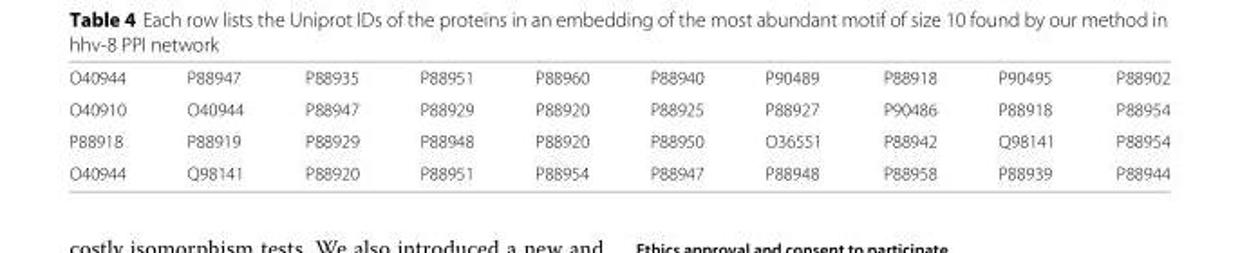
<table><tbody><tr><td>O40944</td><td>P88947</td><td>P88935</td><td>P88951</td><td>P88960</td><td>P88940</td><td>P90489</td><td>P88918</td><td>P90495</td><td>P88902</td></tr><tr><td>O40910</td><td>O40944</td><td>P88947</td><td>P88929</td><td>P88920</td><td>P88925</td><td>P88927</td><td>P90486</td><td>P88918</td><td>P88954</td></tr><tr><td>P88918</td><td>P88919</td><td>P88929</td><td>P88948</td><td>P88920</td><td>P88950</td><td>O36551</td><td>P88942</td><td>Q98141</td><td>P88954</td></tr><tr><td>O40944</td><td>Q98141</td><td>P88920</td><td>P88951</td><td>P88954</td><td>P88947</td><td>P88948</td><td>P88958</td><td>P88939</td><td>P88944</td></tr></tbody></table>